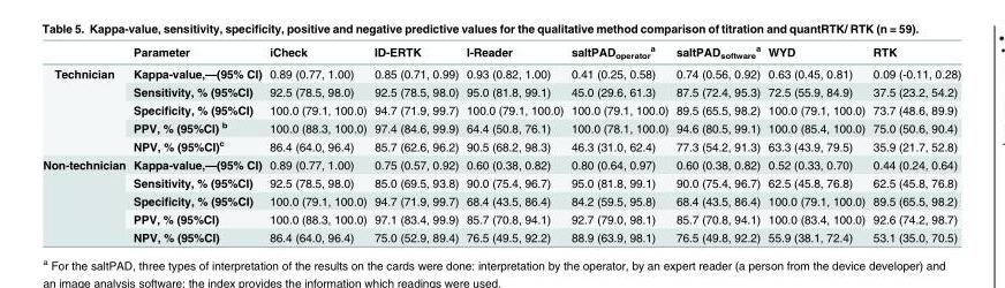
<table><thead><tr><td></td><td>Parameter</td><td>iCheck</td><td>ID-ERTK</td><td>I-Reader</td><td>saltPAD<sub>operator</sub> <sup>a</sup></td><td>saltPAD<sub>software</sub> <sup>a</sup></td><td>WYD</td><td>RTK</td></tr></thead><tbody><tr><td rowspan="5">Technician</td><td>Kappa-value,—(95% CI)</td><td>0.89 (0.77, 1.00)</td><td>0.85 (0.71, 0.99)</td><td>0.93 (0.82, 1.00)</td><td>0.41 (0.25, 0.58)</td><td>0.74 (0.56, 0.92)</td><td>0.63 (0.45, 0.81)</td><td>0.09 (-0.11, 0.28)</td></tr><tr><td>Sensitivity, % (95%CI)</td><td>92.5 (78.5, 98.0)</td><td>92.5 (78.5, 98.0)</td><td>95.0 (81.8, 99.1)</td><td>45.0 (29.6, 61.3)</td><td>87.5 (72.4, 95.3)</td><td>72.5 (55.9, 84.9)</td><td>37.5 (23.2, 54.2)</td></tr><tr><td>Specificity, % (95%CI)</td><td>100.0 (79.1, 100.0)</td><td>94.7 (71.9, 99.7)</td><td>100.0 (79.1, 100.0)</td><td>100.0 (79.1, 100.0)</td><td>89.5 (65.5, 98.2)</td><td>100.0 (79.1, 100.0)</td><td>73.7 (48.6, 89.9)</td></tr><tr><td>PPV, % (95%CI) <sup>b</sup></td><td>100.0 (88.3, 100.0)</td><td>97.4 (84.6, 99.9)</td><td>64.4 (50.8, 76.1)</td><td>100.0 (78.1, 100.0)</td><td>94.6 (80.5, 99.1)</td><td>100.0 (85.4, 100.0)</td><td>75.0 (50.6, 90.4)</td></tr><tr><td>NPV, % (95%CI)<sup>c</sup></td><td>86.4 (64.0, 96.4)</td><td>85.7 (62.6, 96.2)</td><td>90.5 (68.2, 98.3)</td><td>46.3 (31.0, 62.4)</td><td>77.3 (54.2, 91.3)</td><td>63.3 (43.9, 79.5)</td><td>35.9 (21.7, 52.8)</td></tr><tr><td rowspan="5">Non-technician</td><td>Kappa-value,—(95% CI)</td><td>0.89 (0.77, 1.00)</td><td>0.75 (0.57, 0.92)</td><td>0.60 (0.38, 0.82)</td><td>0.80 (0.64, 0.97)</td><td>0.60 (0.38, 0.82)</td><td>0.52 (0.33, 0.70)</td><td>0.44 (0.24, 0.64)</td></tr><tr><td>Sensitivity, % (95%CI)</td><td>92.5 (78.5, 98.0)</td><td>85.0 (69.5, 93.8)</td><td>90.0 (75.4, 96.7)</td><td>95.0 (81.8, 99.1)</td><td>90.0 (75.4, 96.7)</td><td>62.5 (45.8, 76.8)</td><td>62.5 (45.8, 76.8)</td></tr><tr><td>Specificity, % (95%CI)</td><td>100.0 (79.1, 100.0)</td><td>94.7 (71.9, 99.7)</td><td>68.4 (43.5, 86.4)</td><td>84.2 (59.5, 95.8)</td><td>68.4 (43.5, 86.4)</td><td>100.0 (79.1, 100.0)</td><td>89.5 (65.5, 98.2)</td></tr><tr><td>PPV, % (95%CI)</td><td>100.0 (88.3, 100.0)</td><td>97.1 (83.4, 99.9)</td><td>85.7 (70.8, 94.1)</td><td>92.7 (79.0, 98.1)</td><td>85.7 (70.8, 94.1)</td><td>100.0 (83.4, 100.0)</td><td>92.6 (74.2, 98.7)</td></tr><tr><td>NPV, % (95%CI)</td><td>86.4 (64.0, 96.4)</td><td>75.0 (52.9, 89.4)</td><td>76.5 (49.5, 92.2)</td><td>88.9 (63.9, 98.1)</td><td>76.5 (49.8, 92.2)</td><td>55.9 (38.1, 72.4)</td><td>53.1 (35.0, 70.5)</td></tr></tbody></table>